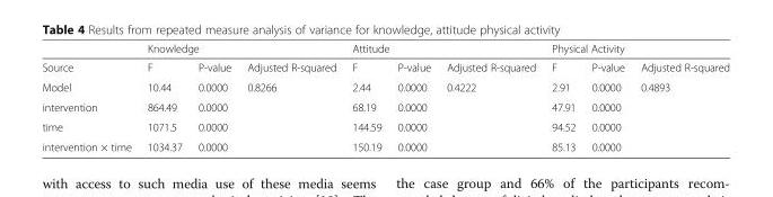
<table><thead><tr><td rowspan="2">Source</td><td colspan="3">Knowledge</td><td colspan="3">Attitude</td><td colspan="3">Physical Activity</td></tr><tr><td>F</td><td>P-value</td><td>Adjusted R-squared</td><td>F</td><td>P-value</td><td>Adjusted R-squared</td><td>F</td><td>P-value</td><td>Adjusted R-squared</td></tr></thead><tbody><tr><td>Model</td><td>10.44</td><td>0.0000</td><td rowspan="4">0.8266</td><td>2.44</td><td>0.0000</td><td rowspan="4">0.4222</td><td>2.91</td><td>0.0000</td><td rowspan="4">0.4893</td></tr><tr><td>intervention</td><td>864.49</td><td>0.0000</td><td>68.19</td><td>0.0000</td><td>47.91</td><td>0.0000</td></tr><tr><td>time</td><td>1071.5</td><td>0.0000</td><td>144.59</td><td>0.0000</td><td>94.52</td><td>0.0000</td></tr><tr><td>intervention × time</td><td>1034.37</td><td>0.0000</td><td>150.19</td><td>0.0000</td><td>85.13</td><td>0.0000</td></tr></tbody></table>